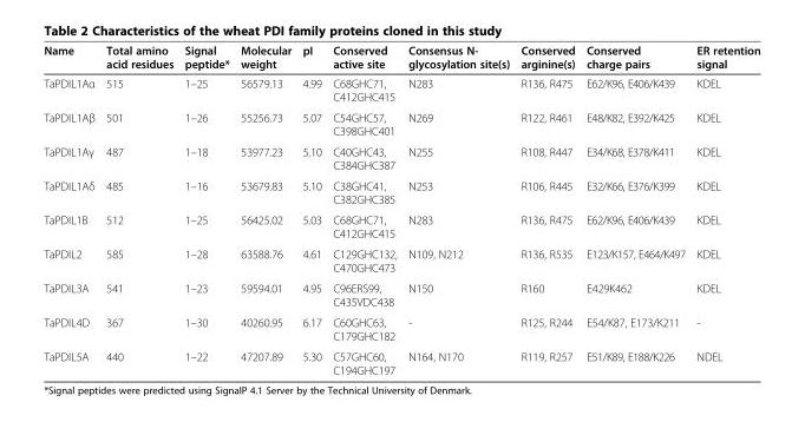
<table><thead><tr><td>Name</td><td>Total amino acid residues</td><td>Signal peptide*</td><td>Molecular weight</td><td>pI</td><td>Conserved active site</td><td>Consensus N- glycosylation site(s)</td><td>Conserved arginine(s)</td><td>Conserved charge pairs</td><td>ER retention signal</td></tr></thead><tbody><tr><td>TaPDIL1Aα</td><td>515</td><td>1–25</td><td>56579.13</td><td>4.99</td><td>C68GHC71, C412GHC415</td><td>N283</td><td>R136, R475</td><td>E62/K96, E406/K439</td><td>KDEL</td></tr><tr><td>TaPDIL1Aβ</td><td>501</td><td>1–26</td><td>55256.73</td><td>5.07</td><td>C54GHC57, C398GHC401</td><td>N269</td><td>R122, R461</td><td>E48/K82, E392/K425</td><td>KDEL</td></tr><tr><td>TaPDIL1Aγ</td><td>487</td><td>1–18</td><td>53977.23</td><td>5.10</td><td>C40GHC43, C384GHC387</td><td>N255</td><td>R108, R447</td><td>E34/K68, E378/K411</td><td>KDEL</td></tr><tr><td>TaPDIL1Aδ</td><td>485</td><td>1–16</td><td>53679.83</td><td>5.10</td><td>C38GHC41, C382GHC385</td><td>N253</td><td>R106, R445</td><td>E32/K66, E376/K399</td><td>KDEL</td></tr><tr><td>TaPDIL1B</td><td>512</td><td>1–25</td><td>56425.02</td><td>5.03</td><td>C68GHC71, C412GHC415</td><td>N283</td><td>R136, R475</td><td>E62/K96, E406/K439</td><td>KDEL</td></tr><tr><td>TaPDIL2</td><td>585</td><td>1–28</td><td>63588.76</td><td>4.61</td><td>C129GHC132, C470GHC473</td><td>N109, N212</td><td>R136, R535</td><td>E123/K157, E464/K497</td><td>KDEL</td></tr><tr><td>TaPDIL3A</td><td>541</td><td>1–23</td><td>59594.01</td><td>4.95</td><td>C96ERS99, C435VDC438</td><td>N150</td><td>R160</td><td>E429K462</td><td>KDEL</td></tr><tr><td>TaPDIL4D</td><td>367</td><td>1–30</td><td>40260.95</td><td>6.17</td><td>C60GHC63, C179GHC182</td><td>-</td><td>R125, R244</td><td>E54/K87, E173/K211</td><td>-</td></tr><tr><td>TaPDIL5A</td><td>440</td><td>1–22</td><td>47207.89</td><td>5.30</td><td>C57GHC60, C194GHC197</td><td>N164, N170</td><td>R119, R257</td><td>E51/K89, E188/K226</td><td>NDEL</td></tr></tbody></table>